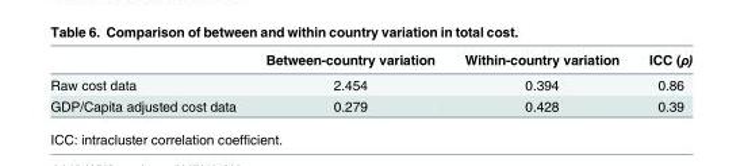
<table><thead><tr><td></td><td>Between-country variation</td><td>Within-country variation</td><td>ICC (ρ)</td></tr></thead><tbody><tr><td>Raw cost data</td><td>2.454</td><td>0.394</td><td>0.86</td></tr><tr><td>GDP/Capita adjusted cost data</td><td>0.279</td><td>0.428</td><td>0.39</td></tr></tbody></table>